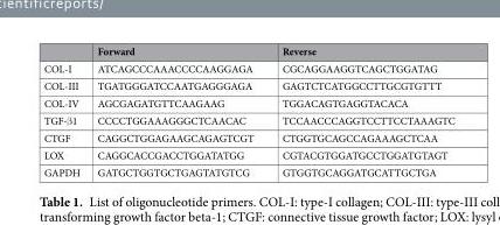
<table><thead><tr><td></td><td>Forward</td><td>Reverse</td></tr></thead><tbody><tr><td>COL-I</td><td>ATCAGCCCAAACCCCAAGGAGA</td><td>CGCAGGAAGGTCAGCTGGATAG</td></tr><tr><td>COL-III</td><td>TGATGGGATCCAATGAGGGAGA</td><td>GAGTCTCATGGCCTTGCGTGTTT</td></tr><tr><td>COL-IV</td><td>AGCGAGATGTTCAAGAAG</td><td>TGGACAGTGAGGTACACA</td></tr><tr><td>TGF-β1</td><td>CCCCTGGAAAGGGCTCAACAC</td><td>TCCAACCCAGGTCCTTCCTAAAGTC</td></tr><tr><td>CTGF</td><td>CAGGCTGGAGAAGCAGAGTCGT</td><td>CTGGTGCAGCCAGAAAGCTCAA</td></tr><tr><td>LOX</td><td>CAGGCACCGACCTGGATATGG</td><td>CGTACGTGGATGCCTGGATGTAGT</td></tr><tr><td>GAPDH</td><td>GATGCTGGTGCTGAGTATGTCG</td><td>GTGGTGCAGGATGCATTGCTGA</td></tr></tbody></table>